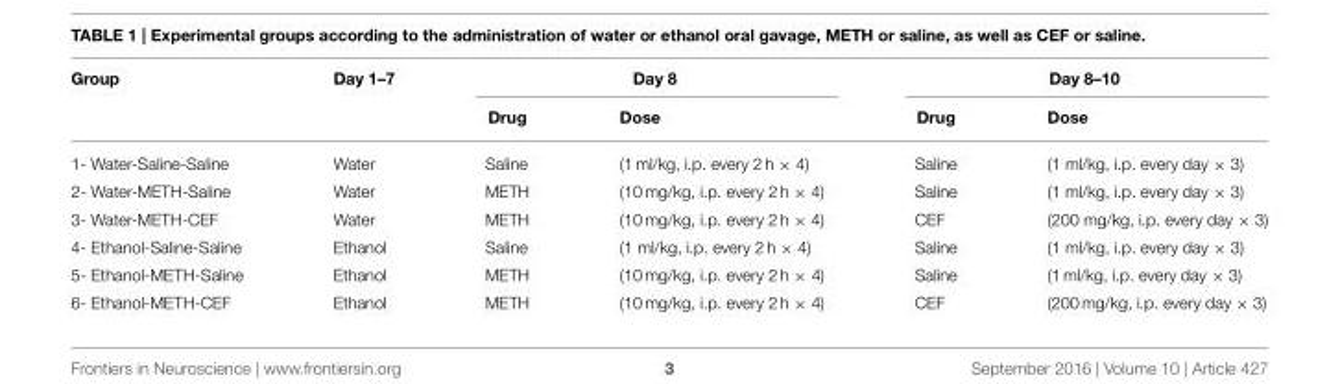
<table><thead><tr><td rowspan="2">Group</td><td rowspan="2">Day 1–7</td><td colspan="2">Day 8</td><td colspan="2">Day 8–10</td></tr><tr><td>Drug</td><td>Dose</td><td>Drug</td><td>Dose</td></tr></thead><tbody><tr><td>1- Water-Saline-Saline</td><td>Water</td><td>Saline</td><td>(1 ml/kg, i.p. every 2 h × 4)</td><td>Saline</td><td>(1 ml/kg, i.p. every day × 3)</td></tr><tr><td>2- Water-METH-Saline</td><td>Water</td><td>METH</td><td>(10 mg/kg, i.p. every 2 h × 4)</td><td>Saline</td><td>(1 ml/kg, i.p. every day × 3)</td></tr><tr><td>3- Water-METH-CEF</td><td>Water</td><td>METH</td><td>(10 mg/kg, i.p. every 2 h × 4)</td><td>CEF</td><td>(200 mg/kg, i.p. every day × 3)</td></tr><tr><td>4- Ethanol-Saline-Saline</td><td>Ethanol</td><td>Saline</td><td>(1 ml/kg, i.p. every 2 h × 4)</td><td>Saline</td><td>(1 ml/kg, i.p. every day × 3)</td></tr><tr><td>5- Ethanol-METH-Saline</td><td>Ethanol</td><td>METH</td><td>(10 mg/kg, i.p. every 2 h × 4)</td><td>Saline</td><td>(1 ml/kg, i.p. every day × 3)</td></tr><tr><td>6- Ethanol-METH-CEF</td><td>Ethanol</td><td>METH</td><td>(10 mg/kg, i.p. every 2 h × 4)</td><td>CEF</td><td>(200 mg/kg, i.p. every day × 3)</td></tr></tbody></table>